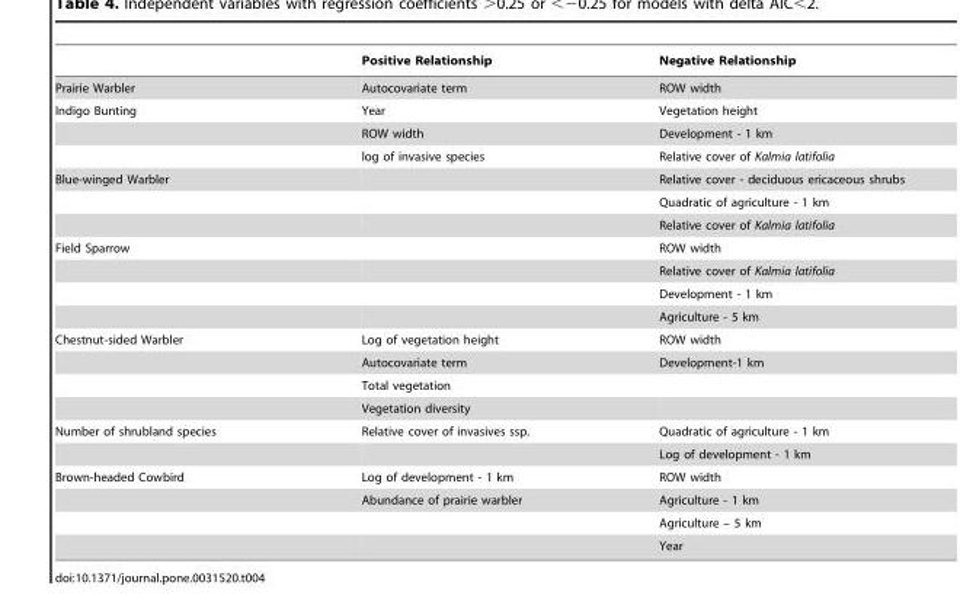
<table><thead><tr><td></td><td>Positive Relationship</td><td>Negative Relationship</td></tr></thead><tbody><tr><td>Prairie Warbler</td><td>Autocovariate term</td><td>ROW width</td></tr><tr><td rowspan="3">Indigo Bunting</td><td>Year</td><td>Vegetation height</td></tr><tr><td>ROW width</td><td>Development - 1 km</td></tr><tr><td>log of invasive species</td><td>Relative cover of Kalmia latifolia</td></tr><tr><td rowspan="3">Blue-winged Warbler</td><td></td><td>Relative cover - deciduous ericaceous shrubs</td></tr><tr><td></td><td>Quadratic of agriculture - 1 km</td></tr><tr><td></td><td>Relative cover of Kalmia latifolia</td></tr><tr><td rowspan="4">Field Sparrow</td><td></td><td>ROW width</td></tr><tr><td></td><td>Relative cover of Kalmia latifolia</td></tr><tr><td></td><td>Development - 1 km</td></tr><tr><td></td><td>Agriculture - 5 km</td></tr><tr><td rowspan="4">Chestnut-sided Warbler</td><td>Log of vegetation height</td><td>ROW width</td></tr><tr><td>Autocovariate term</td><td>Development-1 km</td></tr><tr><td>Total vegetation</td><td></td></tr><tr><td>Vegetation diversity</td><td></td></tr><tr><td rowspan="2">Number of shrubland species</td><td>Relative cover of invasives ssp.</td><td>Quadratic of agriculture - 1 km</td></tr><tr><td></td><td>Log of development - 1 km</td></tr><tr><td rowspan="4">Brown-headed Cowbird</td><td>Log of development - 1 km</td><td>ROW width</td></tr><tr><td>Abundance of prairie warbler</td><td>Agriculture - 1 km</td></tr><tr><td></td><td>Agriculture – 5 km</td></tr><tr><td></td><td>Year</td></tr></tbody></table>